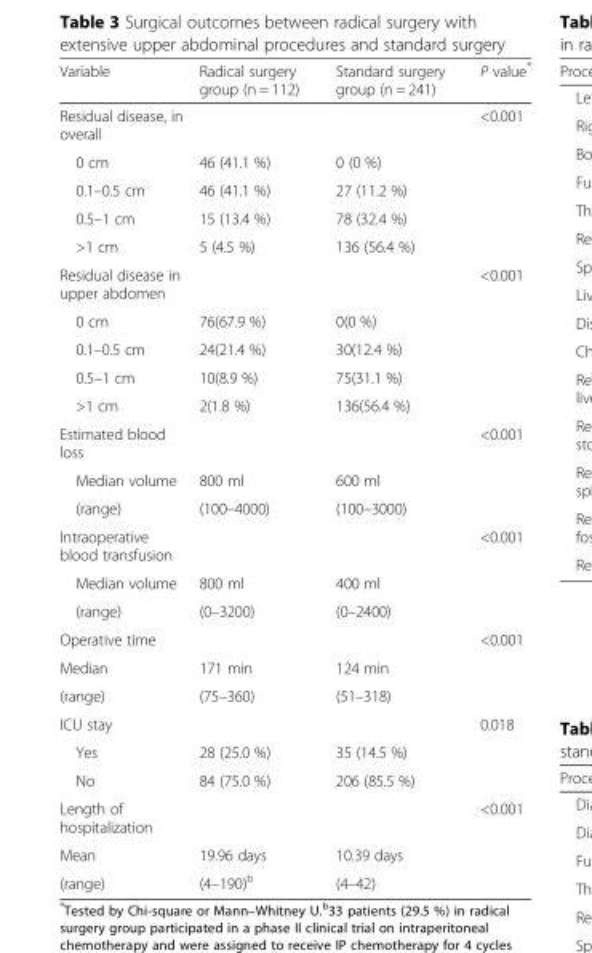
<table><thead><tr><td>Variable</td><td>Radical surgery group (n = 112)</td><td>Standard surgery group (n = 241)</td><td>P value*</td></tr></thead><tbody><tr><td>Residual disease, in overall</td><td></td><td></td><td>&lt;0.001</td></tr><tr><td>0 cm</td><td>46 (41.1 %)</td><td>0 (0 %)</td><td></td></tr><tr><td>0.1–0.5 cm</td><td>46 (41.1 %)</td><td>27 (11.2 %)</td><td></td></tr><tr><td>0.5–1 cm</td><td>15 (13.4 %)</td><td>78 (32.4 %)</td><td></td></tr><tr><td>&gt;1 cm</td><td>5 (4.5 %)</td><td>136 (56.4 %)</td><td></td></tr><tr><td colspan="2">Residual disease in upper abdomen</td><td></td><td>&lt;0.001</td></tr><tr><td>0 cm</td><td>76(67.9 %)</td><td>0(0 %)</td><td></td></tr><tr><td>0.1–0.5 cm</td><td>24(21.4 %)</td><td>30(12.4 %)</td><td></td></tr><tr><td>0.5–1 cm</td><td>10(8.9 %)</td><td>75(31.1 %)</td><td></td></tr><tr><td>&gt;1 cm</td><td>2(1.8 %)</td><td>136(56.4 %)</td><td></td></tr><tr><td>Estimated blood loss</td><td></td><td></td><td>&lt;0.001</td></tr><tr><td>Median volume</td><td>800 ml</td><td>600 ml</td><td></td></tr><tr><td>(range)</td><td>(100–4000)</td><td>(100–3000)</td><td></td></tr><tr><td>Intraoperative blood transfusion</td><td></td><td></td><td>&lt;0.001</td></tr><tr><td>Median volume</td><td>800 ml</td><td>400 ml</td><td></td></tr><tr><td>(range)</td><td>(0–3200)</td><td>(0–2400)</td><td></td></tr><tr><td>Operative time</td><td></td><td></td><td>&lt;0.001</td></tr><tr><td>Median</td><td>171 min</td><td>124 min</td><td></td></tr><tr><td>(range)</td><td>(75–360)</td><td>(51–318)</td><td></td></tr><tr><td>ICU stay</td><td></td><td></td><td>0.018</td></tr><tr><td>Yes</td><td>28 (25.0 %)</td><td>35 (14.5 %)</td><td></td></tr><tr><td>No</td><td>84 (75.0 %)</td><td>206 (85.5 %)</td><td></td></tr><tr><td>Length of hospitalization</td><td></td><td></td><td>&lt;0.001</td></tr><tr><td>Mean</td><td>19.96 days</td><td>10.39 days</td><td></td></tr><tr><td>(range)</td><td>(4–190)<sup>b</sup></td><td>(4–42)</td><td></td></tr></tbody></table>